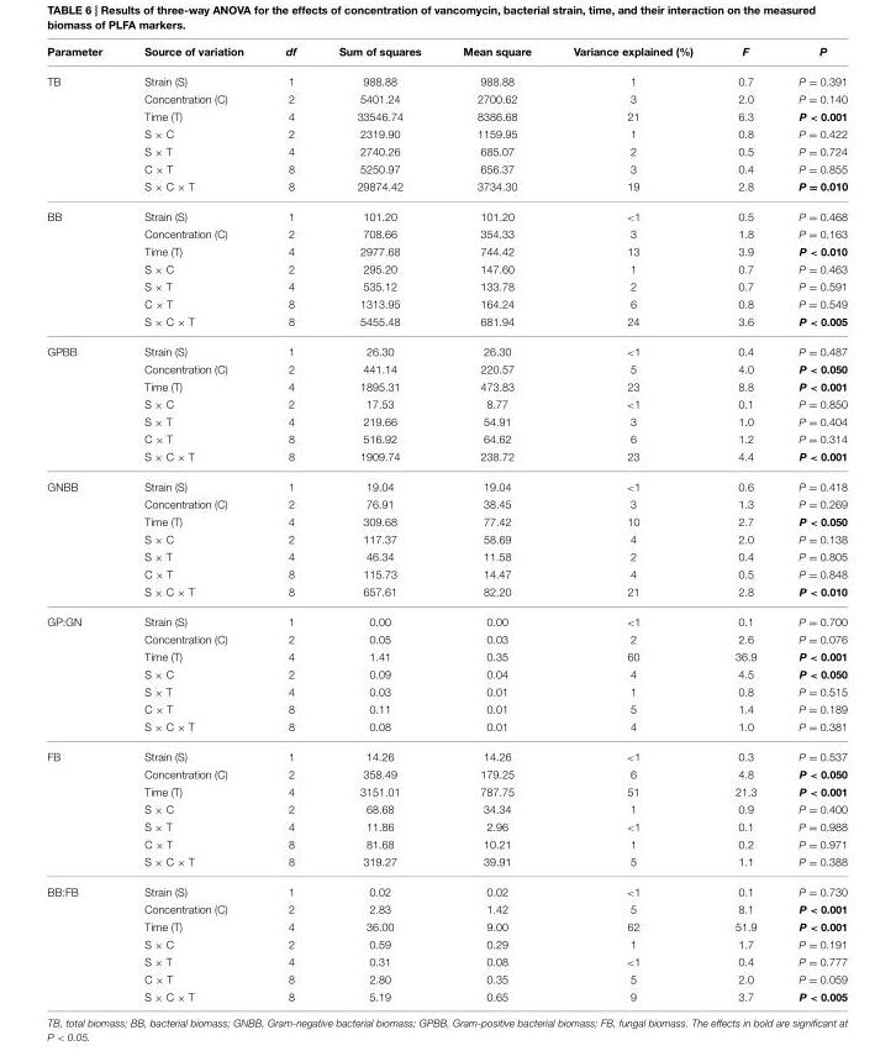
<table><thead><tr><td>Parameter</td><td>Source of variation</td><td>df</td><td>Sum of squares</td><td>Mean square</td><td>Variance explained (%)</td><td>F</td><td>P</td></tr></thead><tbody><tr><td rowspan="7">TB</td><td>Strain (S)</td><td>1</td><td>988.88</td><td>988.88</td><td>1</td><td>0.7</td><td>P = 0.391</td></tr><tr><td>Concentration (C)</td><td>2</td><td>5401.24</td><td>2700.62</td><td>3</td><td>2.0</td><td>P = 0.140</td></tr><tr><td>Time (T)</td><td>4</td><td>33546.74</td><td>8386.68</td><td>21</td><td>6.3</td><td>P &lt; 0.001</td></tr><tr><td>S × C</td><td>2</td><td>2319.90</td><td>1159.95</td><td>1</td><td>0.8</td><td>P = 0.422</td></tr><tr><td>S × T</td><td>4</td><td>2740.26</td><td>685.07</td><td>2</td><td>0.5</td><td>P = 0.724</td></tr><tr><td>C × T</td><td>8</td><td>5250.97</td><td>656.37</td><td>3</td><td>0.4</td><td>P = 0.855</td></tr><tr><td>S × C × T</td><td>8</td><td>29874.42</td><td>3734.30</td><td>19</td><td>2.8</td><td>P = 0.010</td></tr><tr><td rowspan="7">BB</td><td>Strain (S)</td><td>1</td><td>101.20</td><td>101.20</td><td>&lt;1</td><td>0.5</td><td>P = 0.468</td></tr><tr><td>Concentration (C)</td><td>2</td><td>708.66</td><td>354.33</td><td>3</td><td>1.8</td><td>P = 0.163</td></tr><tr><td>Time (T)</td><td>4</td><td>2977.68</td><td>744.42</td><td>13</td><td>3.9</td><td>P &lt; 0.010</td></tr><tr><td>S × C</td><td>2</td><td>295.20</td><td>147.60</td><td>1</td><td>0.7</td><td>P = 0.463</td></tr><tr><td>S × T</td><td>4</td><td>535.12</td><td>133.78</td><td>2</td><td>0.7</td><td>P = 0.591</td></tr><tr><td>C × T</td><td>8</td><td>1313.95</td><td>164.24</td><td>6</td><td>0.8</td><td>P = 0.549</td></tr><tr><td>S × C × T</td><td>8</td><td>5455.48</td><td>681.94</td><td>24</td><td>3.6</td><td>P &lt; 0.005</td></tr><tr><td rowspan="7">GPBB</td><td>Strain (S)</td><td>1</td><td>26.30</td><td>26.30</td><td>&lt;1</td><td>0.4</td><td>P = 0.487</td></tr><tr><td>Concentration (C)</td><td>2</td><td>441.14</td><td>220.57</td><td>5</td><td>4.0</td><td>P &lt; 0.050</td></tr><tr><td>Time (T)</td><td>4</td><td>1895.31</td><td>473.83</td><td>23</td><td>8.8</td><td>P &lt; 0.001</td></tr><tr><td>S × C</td><td>2</td><td>17.53</td><td>8.77</td><td>&lt;1</td><td>0.1</td><td>P = 0.850</td></tr><tr><td>S × T</td><td>4</td><td>219.66</td><td>54.91</td><td>3</td><td>1.0</td><td>P = 0.404</td></tr><tr><td>C × T</td><td>8</td><td>516.92</td><td>64.62</td><td>6</td><td>1.2</td><td>P = 0.314</td></tr><tr><td>S × C × T</td><td>8</td><td>1909.74</td><td>238.72</td><td>23</td><td>4.4</td><td>P &lt; 0.001</td></tr><tr><td rowspan="7">GNBB</td><td>Strain (S)</td><td>1</td><td>19.04</td><td>19.04</td><td>&lt;1</td><td>0.6</td><td>P = 0.418</td></tr><tr><td>Concentration (C)</td><td>2</td><td>76.91</td><td>38.45</td><td>3</td><td>1.3</td><td>P = 0.269</td></tr><tr><td>Time (T)</td><td>4</td><td>309.68</td><td>77.42</td><td>10</td><td>2.7</td><td>P &lt; 0.050</td></tr><tr><td>S × C</td><td>2</td><td>117.37</td><td>58.69</td><td>4</td><td>2.0</td><td>P = 0.138</td></tr><tr><td>S × T</td><td>4</td><td>46.34</td><td>11.58</td><td>2</td><td>0.4</td><td>P = 0.805</td></tr><tr><td>C × T</td><td>8</td><td>115.73</td><td>14.47</td><td>4</td><td>0.5</td><td>P = 0.848</td></tr><tr><td>S × C × T</td><td>8</td><td>657.61</td><td>82.20</td><td>21</td><td>2.8</td><td>P &lt; 0.010</td></tr><tr><td rowspan="7">GP:GN</td><td>Strain (S)</td><td>1</td><td>0.00</td><td>0.00</td><td>&lt;1</td><td>0.1</td><td>P = 0.700</td></tr><tr><td>Concentration (C)</td><td>2</td><td>0.05</td><td>0.03</td><td>2</td><td>2.6</td><td>P = 0.076</td></tr><tr><td>Time (T)</td><td>4</td><td>1.41</td><td>0.35</td><td>60</td><td>36.9</td><td>P &lt; 0.001</td></tr><tr><td>S × C</td><td>2</td><td>0.09</td><td>0.04</td><td>4</td><td>4.5</td><td>P &lt; 0.050</td></tr><tr><td>S × T</td><td>4</td><td>0.03</td><td>0.01</td><td>1</td><td>0.8</td><td>P = 0.515</td></tr><tr><td>C × T</td><td>8</td><td>0.11</td><td>0.01</td><td>5</td><td>1.4</td><td>P = 0.189</td></tr><tr><td>S × C × T</td><td>8</td><td>0.08</td><td>0.01</td><td>4</td><td>1.0</td><td>P = 0.381</td></tr><tr><td rowspan="7">FB</td><td>Strain (S)</td><td>1</td><td>14.26</td><td>14.26</td><td>&lt;1</td><td>0.3</td><td>P = 0.537</td></tr><tr><td>Concentration (C)</td><td>2</td><td>358.49</td><td>179.25</td><td>6</td><td>4.8</td><td>P &lt; 0.050</td></tr><tr><td>Time (T)</td><td>4</td><td>3151.01</td><td>787.75</td><td>51</td><td>21.3</td><td>P &lt; 0.001</td></tr><tr><td>S × C</td><td>2</td><td>68.68</td><td>34.34</td><td>1</td><td>0.9</td><td>P = 0.400</td></tr><tr><td>S × T</td><td>4</td><td>11.86</td><td>2.96</td><td>&lt;1</td><td>0.1</td><td>P = 0.988</td></tr><tr><td>C × T</td><td>8</td><td>81.68</td><td>10.21</td><td>1</td><td>0.2</td><td>P = 0.971</td></tr><tr><td>S × C × T</td><td>8</td><td>319.27</td><td>39.91</td><td>5</td><td>1.1</td><td>P = 0.388</td></tr><tr><td rowspan="7">BB:FB</td><td>Strain (S)</td><td>1</td><td>0.02</td><td>0.02</td><td>&lt;1</td><td>0.1</td><td>P = 0.730</td></tr><tr><td>Concentration (C)</td><td>2</td><td>2.83</td><td>1.42</td><td>5</td><td>8.1</td><td>P &lt; 0.001</td></tr><tr><td>Time (T)</td><td>4</td><td>36.00</td><td>9.00</td><td>62</td><td>51.9</td><td>P &lt; 0.001</td></tr><tr><td>S × C</td><td>2</td><td>0.59</td><td>0.29</td><td>1</td><td>1.7</td><td>P = 0.191</td></tr><tr><td>S × T</td><td>4</td><td>0.31</td><td>0.08</td><td>&lt;1</td><td>0.4</td><td>P = 0.777</td></tr><tr><td>C × T</td><td>8</td><td>2.80</td><td>0.35</td><td>5</td><td>2.0</td><td>P = 0.059</td></tr><tr><td>S × C × T</td><td>8</td><td>5.19</td><td>0.65</td><td>9</td><td>3.7</td><td>P &lt; 0.005</td></tr></tbody></table>